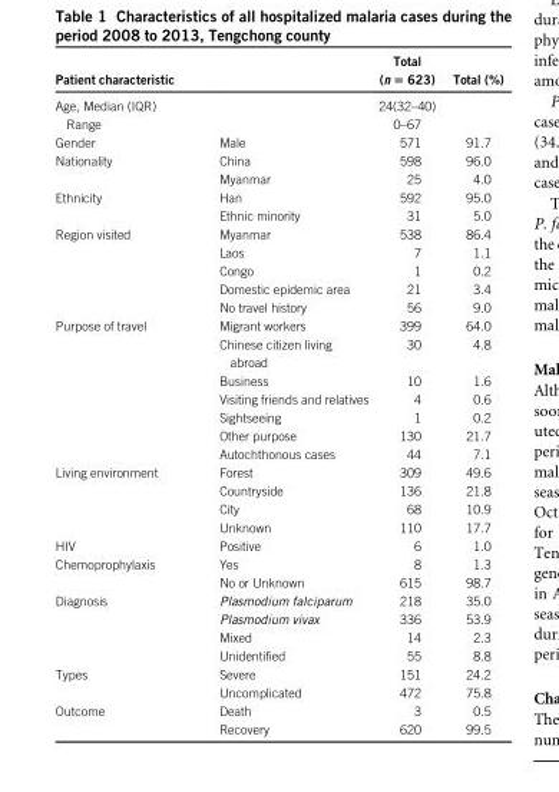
<table><thead><tr><td>Patient characteristic</td><td></td><td>Total (n = 623)</td><td>Total (%)</td></tr></thead><tbody><tr><td>Age, Median (IQR)</td><td></td><td>24(32–40)</td><td></td></tr><tr><td>Range</td><td></td><td>0–67</td><td></td></tr><tr><td>Gender</td><td>Male</td><td>571</td><td>91.7</td></tr><tr><td rowspan="2">Nationality</td><td>China</td><td>598</td><td>96.0</td></tr><tr><td>Myanmar</td><td>25</td><td>4.0</td></tr><tr><td rowspan="2">Ethnicity</td><td>Han</td><td>592</td><td>95.0</td></tr><tr><td>Ethnic minority</td><td>31</td><td>5.0</td></tr><tr><td rowspan="5">Region visited</td><td>Myanmar</td><td>538</td><td>86.4</td></tr><tr><td>Laos</td><td>7</td><td>1.1</td></tr><tr><td>Congo</td><td>1</td><td>0.2</td></tr><tr><td>Domestic epidemic area</td><td>21</td><td>3.4</td></tr><tr><td>No travel history</td><td>56</td><td>9.0</td></tr><tr><td rowspan="7">Purpose of travel</td><td>Migrant workers</td><td>399</td><td>64.0</td></tr><tr><td>Chinese citizen living abroad</td><td>30</td><td>4.8</td></tr><tr><td>Business</td><td>10</td><td>1.6</td></tr><tr><td>Visiting friends and relatives</td><td>4</td><td>0.6</td></tr><tr><td>Sightseeing</td><td>1</td><td>0.2</td></tr><tr><td>Other purpose</td><td>130</td><td>21.7</td></tr><tr><td>Autochthonous cases</td><td>44</td><td>7.1</td></tr><tr><td rowspan="4">Living environment</td><td>Forest</td><td>309</td><td>49.6</td></tr><tr><td>Countryside</td><td>136</td><td>21.8</td></tr><tr><td>City</td><td>68</td><td>10.9</td></tr><tr><td>Unknown</td><td>110</td><td>17.7</td></tr><tr><td>HIV</td><td>Positive</td><td>6</td><td>1.0</td></tr><tr><td rowspan="2">Chemoprophylaxis</td><td>Yes</td><td>8</td><td>1.3</td></tr><tr><td>No or Unknown</td><td>615</td><td>98.7</td></tr><tr><td rowspan="4">Diagnosis</td><td>Plasmodium falciparum</td><td>218</td><td>35.0</td></tr><tr><td>Plasmodium vivax</td><td>336</td><td>53.9</td></tr><tr><td>Mixed</td><td>14</td><td>2.3</td></tr><tr><td>Unidentified</td><td>55</td><td>8.8</td></tr><tr><td rowspan="2">Types</td><td>Severe</td><td>151</td><td>24.2</td></tr><tr><td>Uncomplicated</td><td>472</td><td>75.8</td></tr><tr><td rowspan="2">Outcome</td><td>Death</td><td>3</td><td>0.5</td></tr><tr><td>Recovery</td><td>620</td><td>99.5</td></tr></tbody></table>